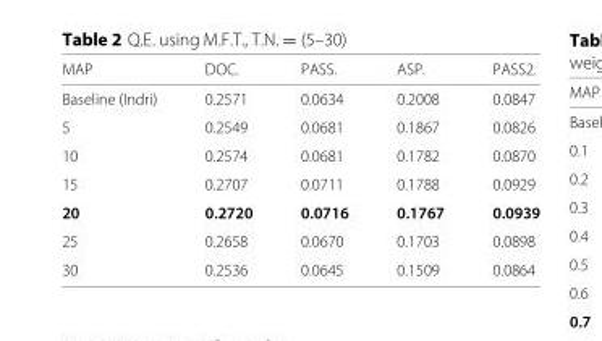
<table><thead><tr><td>MAP</td><td>DOC.</td><td>PASS.</td><td>ASP.</td><td>PASS2.</td></tr></thead><tbody><tr><td>Baseline (Indri)</td><td>0.2571</td><td>0.0634</td><td>0.2008</td><td>0.0847</td></tr><tr><td>5</td><td>0.2549</td><td>0.0681</td><td>0.1867</td><td>0.0826</td></tr><tr><td>10</td><td>0.2574</td><td>0.0681</td><td>0.1782</td><td>0.0870</td></tr><tr><td>15</td><td>0.2707</td><td>0.0711</td><td>0.1788</td><td>0.0929</td></tr><tr><td>20</td><td>0.2720</td><td>0.0716</td><td>0.1767</td><td>0.0939</td></tr><tr><td>25</td><td>0.2658</td><td>0.0670</td><td>0.1703</td><td>0.0898</td></tr><tr><td>30</td><td>0.2536</td><td>0.0645</td><td>0.1509</td><td>0.0864</td></tr></tbody></table>